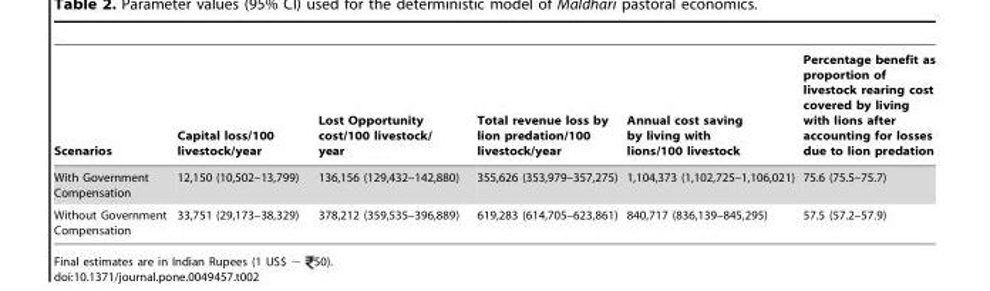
<table><thead><tr><td>Scenarios</td><td>Capital loss/100 livestock/year</td><td>Lost Opportunity cost/100 livestock/ year</td><td>Total revenue loss by lion predation/100 livestock/year</td><td>Annual cost saving by living with lions/100 livestock</td><td>Percentage benefit as proportion of livestock rearing cost covered by living with lions after accounting for losses due to lion predation</td></tr></thead><tbody><tr><td>With Government Compensation</td><td>12,150 (10,502–13,799)</td><td>136,156 (129,432–142,880)</td><td>355,626 (353,979–357,275)</td><td>1,104,373 (1,102,725–1,106,021)</td><td>75.6 (75.5–75.7)</td></tr><tr><td>Without Government Compensation</td><td>33,751 (29,173–38,329)</td><td>378,212 (359,535–396,889)</td><td>619,283 (614,705–623,861)</td><td>840,717 (836,139–845,295)</td><td>57.5 (57.2–57.9)</td></tr></tbody></table>